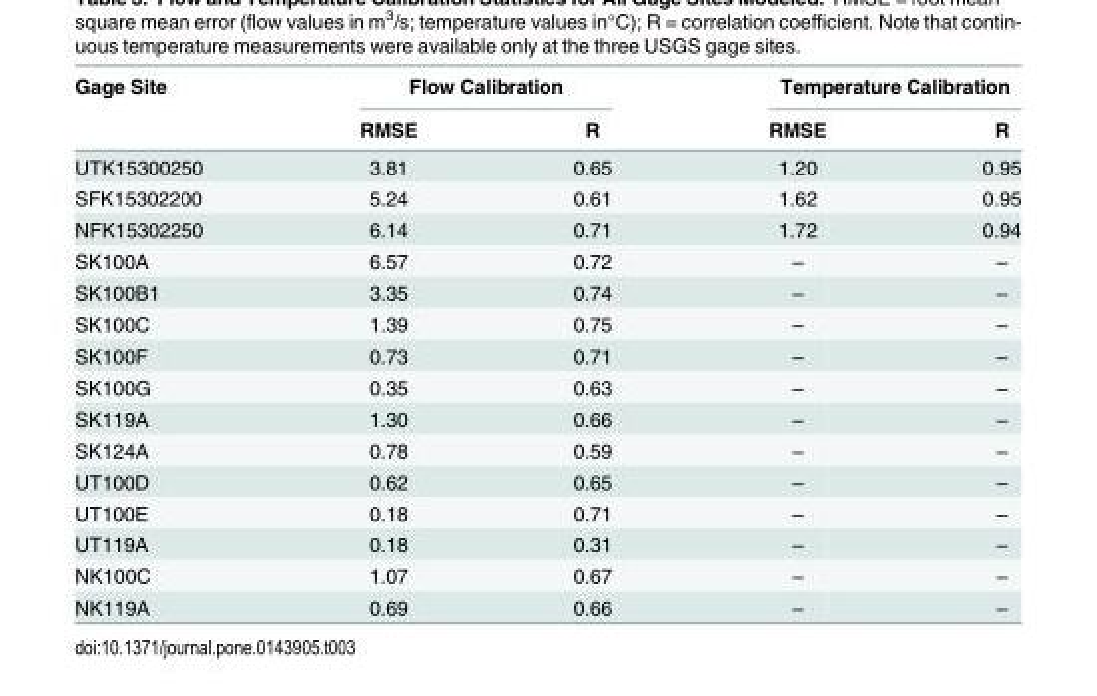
<table><thead><tr><td rowspan="2">Gage Site</td><td colspan="2">Flow Calibration</td><td colspan="2">Temperature Calibration</td></tr><tr><td>RMSE</td><td>R</td><td>RMSE</td><td>R</td></tr></thead><tbody><tr><td>UTK15300250</td><td>3.81</td><td>0.65</td><td>1.20</td><td>0.95</td></tr><tr><td>SFK15302200</td><td>5.24</td><td>0.61</td><td>1.62</td><td>0.95</td></tr><tr><td>NFK15302250</td><td>6.14</td><td>0.71</td><td>1.72</td><td>0.94</td></tr><tr><td>SK100A</td><td>6.57</td><td>0.72</td><td>–</td><td>–</td></tr><tr><td>SK100B1</td><td>3.35</td><td>0.74</td><td>–</td><td>–</td></tr><tr><td>SK100C</td><td>1.39</td><td>0.75</td><td>–</td><td>–</td></tr><tr><td>SK100F</td><td>0.73</td><td>0.71</td><td>–</td><td>–</td></tr><tr><td>SK100G</td><td>0.35</td><td>0.63</td><td>–</td><td>–</td></tr><tr><td>SK119A</td><td>1.30</td><td>0.66</td><td>–</td><td>–</td></tr><tr><td>SK124A</td><td>0.78</td><td>0.59</td><td>–</td><td>–</td></tr><tr><td>UT100D</td><td>0.62</td><td>0.65</td><td>–</td><td>–</td></tr><tr><td>UT100E</td><td>0.18</td><td>0.71</td><td>–</td><td>–</td></tr><tr><td>UT119A</td><td>0.18</td><td>0.31</td><td>–</td><td>–</td></tr><tr><td>NK100C</td><td>1.07</td><td>0.67</td><td>–</td><td>–</td></tr><tr><td>NK119A</td><td>0.69</td><td>0.66</td><td>–</td><td>–</td></tr></tbody></table>